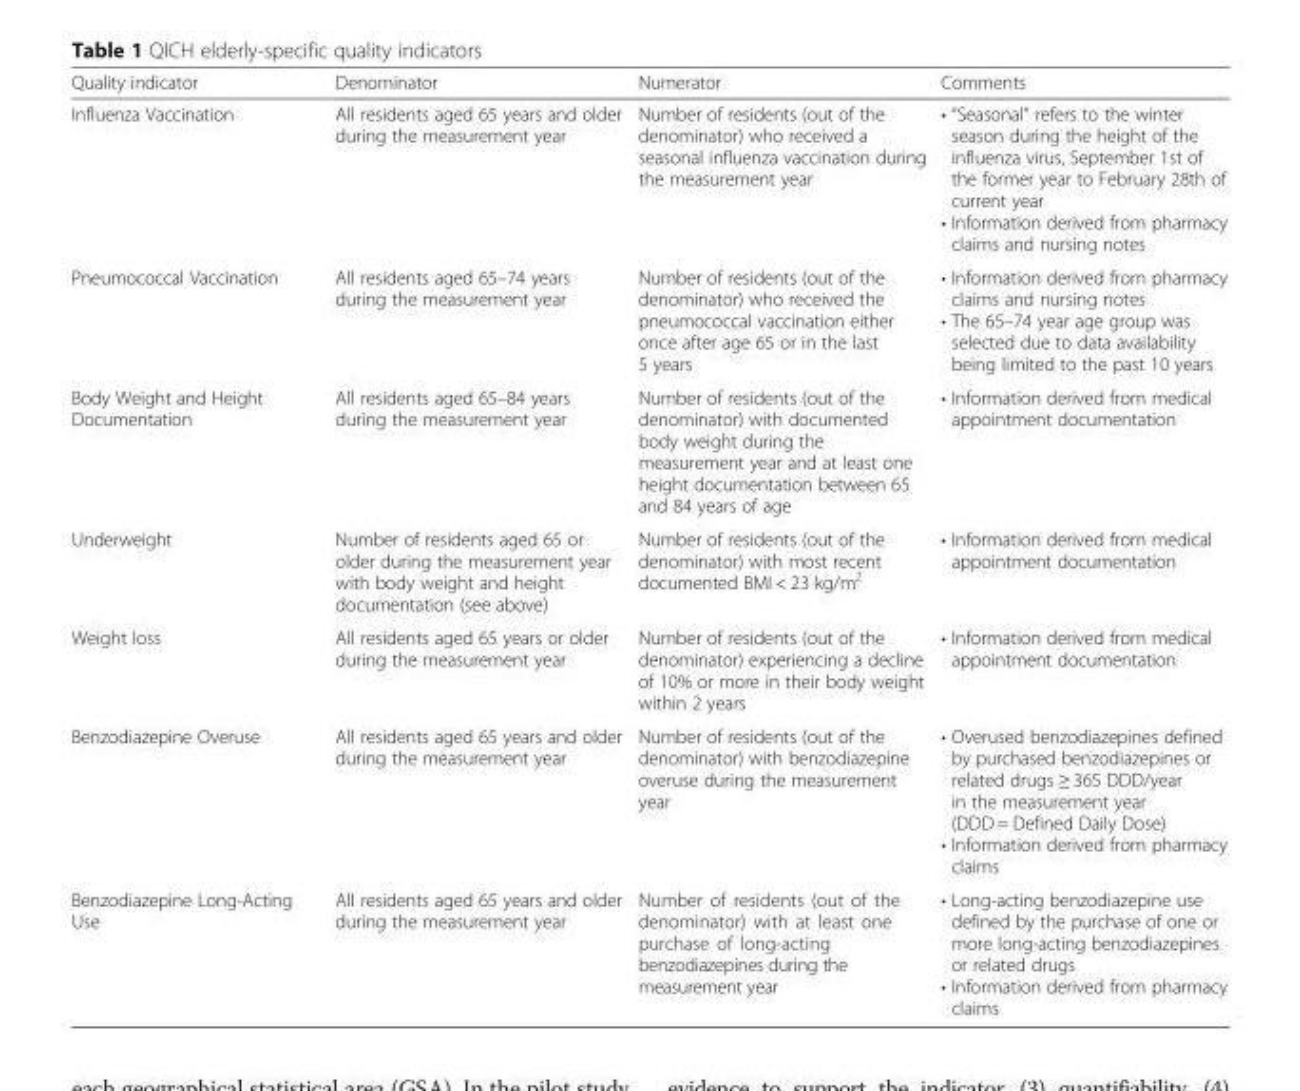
<table><thead><tr><td>Quality indicator</td><td>Denominator</td><td>Numerator</td><td>Comments</td></tr></thead><tbody><tr><td>Influenza Vaccination</td><td>All residents aged 65 years and older during the measurement year</td><td>Number of residents (out of the denominator) who received a seasonal influenza vaccination during the measurement year</td><td>• “Seasonal” refers to the winter season during the height of the influenza virus, September 1st of the former year to February 28th of current year • Information derived from pharmacy claims and nursing notes</td></tr><tr><td>Pneumococcal Vaccination</td><td>All residents aged 65–74 years during the measurement year</td><td>Number of residents (out of the denominator) who received the pneumococcal vaccination either once after age 65 or in the last 5 years</td><td>• Information derived from pharmacy claims and nursing notes • The 65–74 year age group was selected due to data availability being limited to the past 10 years</td></tr><tr><td>Body Weight and Height Documentation</td><td>All residents aged 65–84 years during the measurement year</td><td>Number of residents (out of the denominator) with documented body weight during the measurement year and at least one height documentation between 65 and 84 years of age</td><td>• Information derived from medical appointment documentation</td></tr><tr><td>Underweight</td><td>Number of residents aged 65 or older during the measurement year with body weight and height documentation (see above)</td><td>Number of residents (out of the denominator) with most recent documented BMI &lt; 23 kg/m<sup>2</sup></td><td>• Information derived from medical appointment documentation</td></tr><tr><td>Weight loss</td><td>All residents aged 65 years or older during the measurement year</td><td>Number of residents (out of the denominator) experiencing a decline of 10% or more in their body weight within 2 years</td><td>• Information derived from medical appointment documentation</td></tr><tr><td>Benzodiazepine Overuse</td><td>All residents aged 65 years and older during the measurement year</td><td>Number of residents (out of the denominator) with benzodiazepine overuse during the measurement year</td><td>• Overused benzodiazepines defined by purchased benzodiazepines or related drugs ≥ 365 DDD/year in the measurement year (DDD = Defined Daily Dose) • Information derived from pharmacy claims</td></tr><tr><td>Benzodiazepine Long-Acting Use</td><td>All residents aged 65 years and older during the measurement year</td><td>Number of residents (out of the denominator) with at least one purchase of long-acting benzodiazepines during the measurement year</td><td>• Long-acting benzodiazepine use defined by the purchase of one or more long-acting benzodiazepines or related drugs • Information derived from pharmacy claims</td></tr></tbody></table>